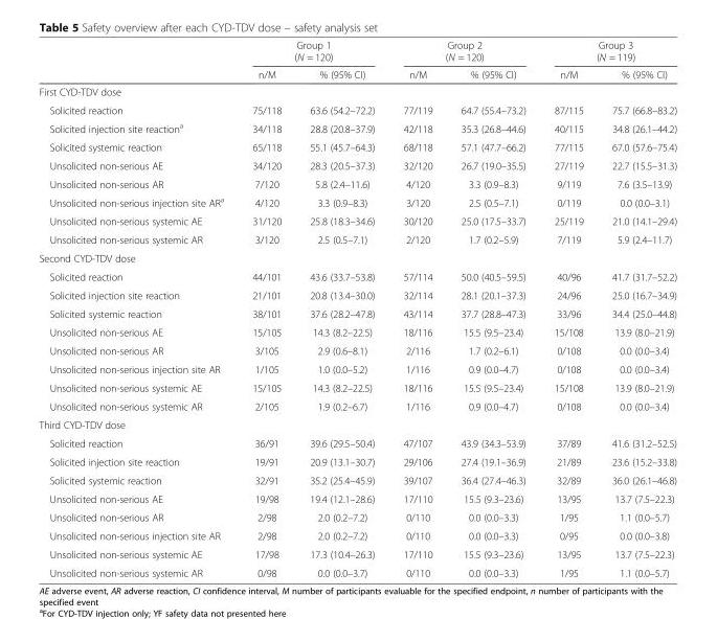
<table><thead><tr><td rowspan="2"></td><td colspan="2">Group 1 (N = 120)</td><td colspan="2">Group 2 (N = 120)</td><td colspan="2">Group 3 (N = 119)</td></tr><tr><td>n/M</td><td>% (95% CI)</td><td>n/M</td><td>% (95% CI)</td><td>n/M</td><td>% (95% CI)</td></tr></thead><tbody><tr><td colspan="7">First CYD-TDV dose</td></tr><tr><td>Solicited reaction</td><td>75/118</td><td>63.6 (54.2–72.2)</td><td>77/119</td><td>64.7 (55.4–73.2)</td><td>87/115</td><td>75.7 (66.8–83.2)</td></tr><tr><td>Solicited injection site reaction<sup>a</sup></td><td>34/118</td><td>28.8 (20.8–37.9)</td><td>42/118</td><td>35.3 (26.8–44.6)</td><td>40/115</td><td>34.8 (26.1–44.2)</td></tr><tr><td>Solicited systemic reaction</td><td>65/118</td><td>55.1 (45.7–64.3)</td><td>68/118</td><td>57.1 (47.7–66.2)</td><td>77/115</td><td>67.0 (57.6–75.4)</td></tr><tr><td>Unsolicited non-serious AE</td><td>34/120</td><td>28.3 (20.5–37.3)</td><td>32/120</td><td>26.7 (19.0–35.5)</td><td>27/119</td><td>22.7 (15.5–31.3)</td></tr><tr><td>Unsolicited non-serious AR</td><td>7/120</td><td>5.8 (2.4–11.6)</td><td>4/120</td><td>3.3 (0.9–8.3)</td><td>9/119</td><td>7.6 (3.5–13.9)</td></tr><tr><td>Unsolicited non-serious injection site AR<sup>a</sup></td><td>4/120</td><td>3.3 (0.9–8.3)</td><td>3/120</td><td>2.5 (0.5–7.1)</td><td>0/119</td><td>0.0 (0.0–3.1)</td></tr><tr><td>Unsolicited non-serious systemic AE</td><td>31/120</td><td>25.8 (18.3–34.6)</td><td>30/120</td><td>25.0 (17.5–33.7)</td><td>25/119</td><td>21.0 (14.1–29.4)</td></tr><tr><td>Unsolicited non-serious systemic AR</td><td>3/120</td><td>2.5 (0.5–7.1)</td><td>2/120</td><td>1.7 (0.2–5.9)</td><td>7/119</td><td>5.9 (2.4–11.7)</td></tr><tr><td colspan="7">Second CYD-TDV dose</td></tr><tr><td>Solicited reaction</td><td>44/101</td><td>43.6 (33.7–53.8)</td><td>57/114</td><td>50.0 (40.5–59.5)</td><td>40/96</td><td>41.7 (31.7–52.2)</td></tr><tr><td>Solicited injection site reaction</td><td>21/101</td><td>20.8 (13.4–30.0)</td><td>32/114</td><td>28.1 (20.1–37.3)</td><td>24/96</td><td>25.0 (16.7–34.9)</td></tr><tr><td>Solicited systemic reaction</td><td>38/101</td><td>37.6 (28.2–47.8)</td><td>43/114</td><td>37.7 (28.8–47.3)</td><td>33/96</td><td>34.4 (25.0–44.8)</td></tr><tr><td>Unsolicited non-serious AE</td><td>15/105</td><td>14.3 (8.2–22.5)</td><td>18/116</td><td>15.5 (9.5–23.4)</td><td>15/108</td><td>13.9 (8.0–21.9)</td></tr><tr><td>Unsolicited non-serious AR</td><td>3/105</td><td>2.9 (0.6–8.1)</td><td>2/116</td><td>1.7 (0.2–6.1)</td><td>0/108</td><td>0.0 (0.0–3.4)</td></tr><tr><td>Unsolicited non-serious injection site AR</td><td>1/105</td><td>1.0 (0.0–5.2)</td><td>1/116</td><td>0.9 (0.0–4.7)</td><td>0/108</td><td>0.0 (0.0–3.4)</td></tr><tr><td>Unsolicited non-serious systemic AE</td><td>15/105</td><td>14.3 (8.2–22.5)</td><td>18/116</td><td>15.5 (9.5–23.4)</td><td>15/108</td><td>13.9 (8.0–21.9)</td></tr><tr><td>Unsolicited non-serious systemic AR</td><td>2/105</td><td>1.9 (0.2–6.7)</td><td>1/116</td><td>0.9 (0.0–4.7)</td><td>0/108</td><td>0.0 (0.0–3.4)</td></tr><tr><td colspan="7">Third CYD-TDV dose</td></tr><tr><td>Solicited reaction</td><td>36/91</td><td>39.6 (29.5–50.4)</td><td>47/107</td><td>43.9 (34.3–53.9)</td><td>37/89</td><td>41.6 (31.2–52.5)</td></tr><tr><td>Solicited injection site reaction</td><td>19/91</td><td>20.9 (13.1–30.7)</td><td>29/106</td><td>27.4 (19.1–36.9)</td><td>21/89</td><td>23.6 (15.2–33.8)</td></tr><tr><td>Solicited systemic reaction</td><td>32/91</td><td>35.2 (25.4–45.9)</td><td>39/107</td><td>36.4 (27.4–46.3)</td><td>32/89</td><td>36.0 (26.1–46.8)</td></tr><tr><td>Unsolicited non-serious AE</td><td>19/98</td><td>19.4 (12.1–28.6)</td><td>17/110</td><td>15.5 (9.3–23.6)</td><td>13/95</td><td>13.7 (7.5–22.3)</td></tr><tr><td>Unsolicited non-serious AR</td><td>2/98</td><td>2.0 (0.2–7.2)</td><td>0/110</td><td>0.0 (0.0–3.3)</td><td>1/95</td><td>1.1 (0.0–5.7)</td></tr><tr><td>Unsolicited non-serious injection site AR</td><td>2/98</td><td>2.0 (0.2–7.2)</td><td>0/110</td><td>0.0 (0.0–3.3)</td><td>0/95</td><td>0.0 (0.0–3.8)</td></tr><tr><td>Unsolicited non-serious systemic AE</td><td>17/98</td><td>17.3 (10.4–26.3)</td><td>17/110</td><td>15.5 (9.3–23.6)</td><td>13/95</td><td>13.7 (7.5–22.3)</td></tr><tr><td>Unsolicited non-serious systemic AR</td><td>0/98</td><td>0.0 (0.0–3.7)</td><td>0/110</td><td>0.0 (0.0–3.3)</td><td>1/95</td><td>1.1 (0.0–5.7)</td></tr></tbody></table>